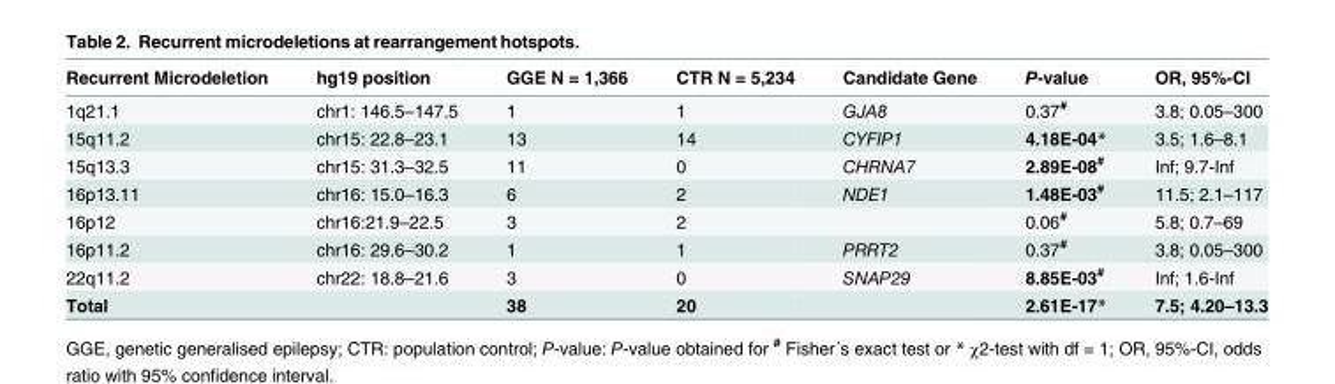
<table><thead><tr><td>Recurrent Microdeletion</td><td>hg19 position</td><td>GGE N = 1,366</td><td>CTR N = 5,234</td><td>Candidate Gene</td><td>P-value</td><td>OR, 95%-CI</td></tr></thead><tbody><tr><td>1q21.1</td><td>chr1: 146.5–147.5</td><td>1</td><td>1</td><td>GJA8</td><td>0.37<sup>#</sup></td><td>3.8; 0.05–300</td></tr><tr><td>15q11.2</td><td>chr15: 22.8–23.1</td><td>13</td><td>14</td><td>CYFIP1</td><td>4.18E-04*</td><td>3.5; 1.6–8.1</td></tr><tr><td>15q13.3</td><td>chr15: 31.3–32.5</td><td>11</td><td>0</td><td>CHRNA7</td><td>2.89E-08<sup>#</sup></td><td>Inf; 9.7-Inf</td></tr><tr><td>16p13.11</td><td>chr16: 15.0–16.3</td><td>6</td><td>2</td><td>NDE1</td><td>1.48E-03<sup>#</sup></td><td>11.5; 2.1–117</td></tr><tr><td>16p12</td><td>chr16:21.9–22.5</td><td>3</td><td>2</td><td></td><td>0.06<sup>#</sup></td><td>5.8; 0.7–69</td></tr><tr><td>16p11.2</td><td>chr16: 29.6–30.2</td><td>1</td><td>1</td><td>PRRT2</td><td>0.37<sup>#</sup></td><td>3.8; 0.05–300</td></tr><tr><td>22q11.2</td><td>chr22: 18.8–21.6</td><td>3</td><td>0</td><td>SNAP29</td><td>8.85E-03<sup>#</sup></td><td>Inf; 1.6-Inf</td></tr><tr><td>Total</td><td></td><td>38</td><td>20</td><td></td><td>2.61E-17*</td><td>7.5; 4.20–13.3</td></tr></tbody></table>